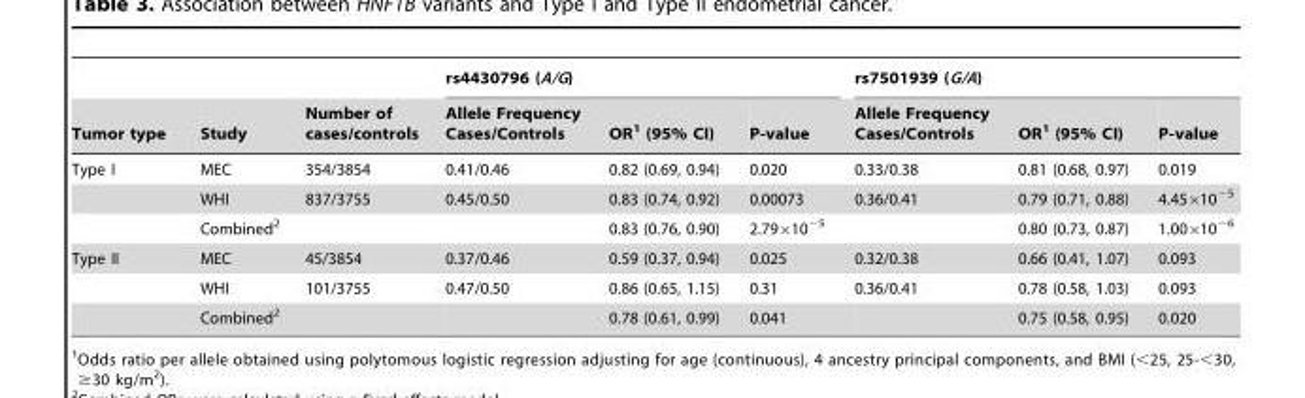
<table><thead><tr><td rowspan="2">Tumor type</td><td rowspan="2">Study</td><td rowspan="2">Number of cases/controls</td><td colspan="3">rs4430796 (A/G)</td><td colspan="3">rs7501939 (G/A)</td></tr><tr><td>Allele Frequency Cases/Controls</td><td>OR<sup>1</sup> (95% CI)</td><td>P-value</td><td>Allele Frequency Cases/Controls</td><td>OR<sup>1</sup> (95% CI)</td><td>P-value</td></tr></thead><tbody><tr><td rowspan="3">Type I</td><td>MEC</td><td>354/3854</td><td>0.41/0.46</td><td>0.82 (0.69, 0.94)</td><td>0.020</td><td>0.33/0.38</td><td>0.81 (0.68, 0.97)</td><td>0.019</td></tr><tr><td>WHI</td><td>837/3755</td><td>0.45/0.50</td><td>0.83 (0.74, 0.92)</td><td>0.00073</td><td>0.36/0.41</td><td>0.79 (0.71, 0.88)</td><td>4.45×10<sup>−5</sup></td></tr><tr><td>Combined<sup>2</sup></td><td></td><td></td><td>0.83 (0.76, 0.90)</td><td>2.79×10<sup>−5</sup></td><td></td><td>0.80 (0.73, 0.87)</td><td>1.00×10<sup>−6</sup></td></tr><tr><td rowspan="3">Type II</td><td>MEC</td><td>45/3854</td><td>0.37/0.46</td><td>0.59 (0.37, 0.94)</td><td>0.025</td><td>0.32/0.38</td><td>0.66 (0.41, 1.07)</td><td>0.093</td></tr><tr><td>WHI</td><td>101/3755</td><td>0.47/0.50</td><td>0.86 (0.65, 1.15)</td><td>0.31</td><td>0.36/0.41</td><td>0.78 (0.58, 1.03)</td><td>0.093</td></tr><tr><td>Combined<sup>2</sup></td><td></td><td></td><td>0.78 (0.61, 0.99)</td><td>0.041</td><td></td><td>0.75 (0.58, 0.95)</td><td>0.020</td></tr></tbody></table>